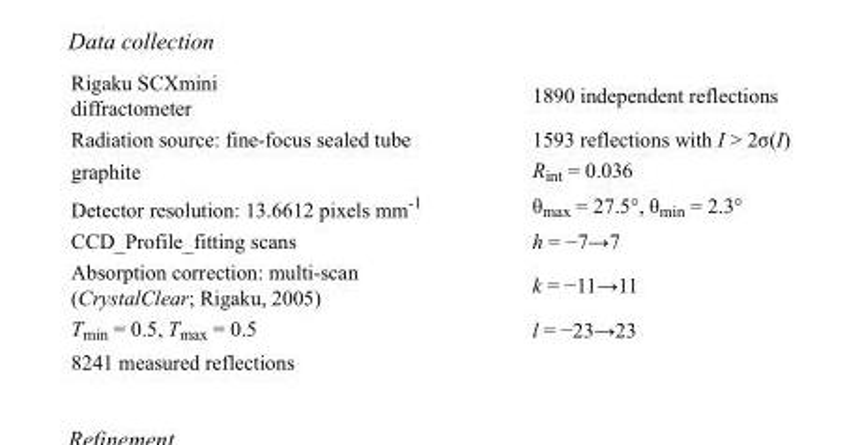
<table><tbody><tr><td>Rigaku SCXmini diffractometer</td><td>1890 independent reflections</td></tr><tr><td>Radiation source: fine-focus sealed tube</td><td>1593 reflections with I &gt; 2σ(I)</td></tr><tr><td>graphite</td><td>R<sub>int</sub> = 0.036</td></tr><tr><td>Detector resolution: 13.6612 pixels mm<sup>-1</sup></td><td>θ<sub>max</sub> = 27.5°, θ<sub>min</sub> = 2.3°</td></tr><tr><td>CCD_Profile_fitting scans</td><td>h = −7→7</td></tr><tr><td>Absorption correction: multi-scan (CrystalClear; Rigaku, 2005)</td><td>k = −11→11</td></tr><tr><td>T<sub>min</sub> = 0.5, T<sub>max</sub> = 0.5</td><td>l = −23→23</td></tr><tr><td>8241 measured reflections</td><td></td></tr></tbody></table>